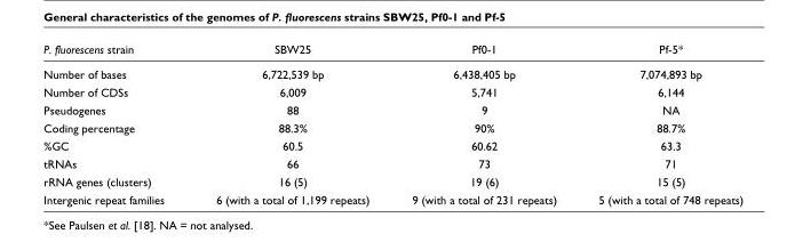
<table><thead><tr><td>P. fluorescens strain</td><td>SBW25</td><td>Pf0-1</td><td>Pf-5*</td></tr></thead><tbody><tr><td>Number of bases</td><td>6,722,539 bp</td><td>6,438,405 bp</td><td>7,074,893 bp</td></tr><tr><td>Number of CDSs</td><td>6,009</td><td>5,741</td><td>6,144</td></tr><tr><td>Pseudogenes</td><td>88</td><td>9</td><td>NA</td></tr><tr><td>Coding percentage</td><td>88.3%</td><td>90%</td><td>88.7%</td></tr><tr><td>%GC</td><td>60.5</td><td>60.62</td><td>63.3</td></tr><tr><td>tRNAs</td><td>66</td><td>73</td><td>71</td></tr><tr><td>rRNA genes (clusters)</td><td>16 (5)</td><td>19 (6)</td><td>15 (5)</td></tr><tr><td>Intergenic repeat families</td><td>6 (with a total of 1,199 repeats)</td><td>9 (with a total of 231 repeats)</td><td>5 (with a total of 748 repeats)</td></tr></tbody></table>